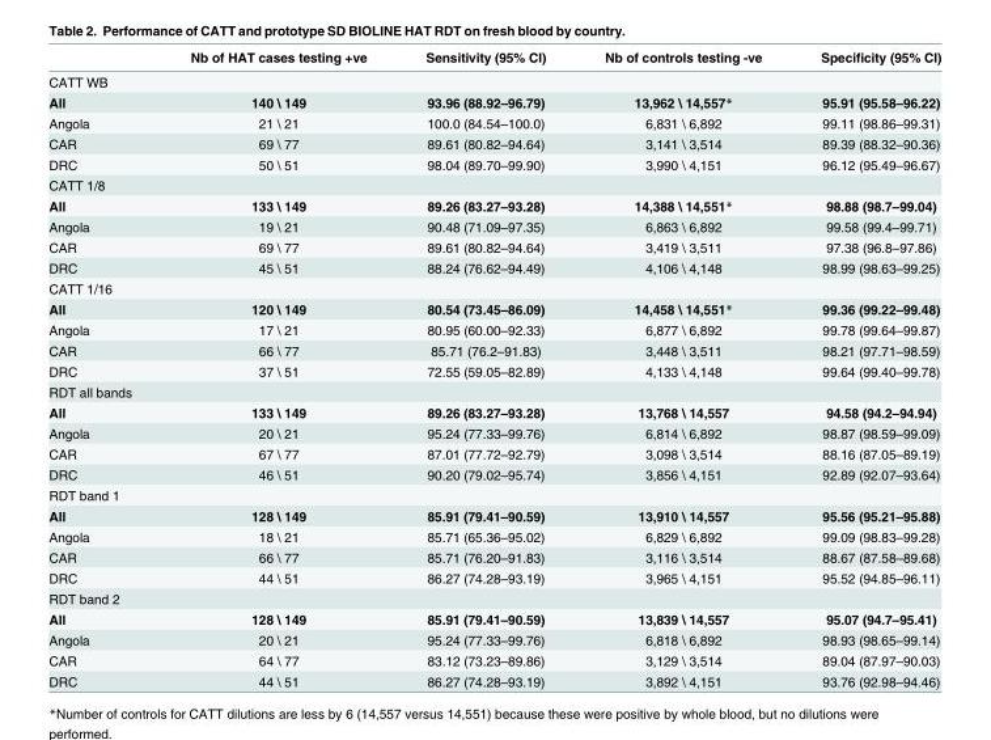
<table><thead><tr><td></td><td>Nb of HAT cases testing +ve</td><td>Sensitivity (95% CI)</td><td>Nb of controls testing -ve</td><td>Specificity (95% CI)</td></tr></thead><tbody><tr><td colspan="5">CATT WB</td></tr><tr><td>All</td><td>140 \ 149</td><td>93.96 (88.92–96.79)</td><td>13,962 \ 14,557*</td><td>95.91 (95.58–96.22)</td></tr><tr><td>Angola</td><td>21 \ 21</td><td>100.0 (84.54–100.0)</td><td>6,831 \ 6,892</td><td>99.11 (98.86–99.31)</td></tr><tr><td>CAR</td><td>69 \ 77</td><td>89.61 (80.82–94.64)</td><td>3,141 \ 3,514</td><td>89.39 (88.32–90.36)</td></tr><tr><td>DRC</td><td>50 \ 51</td><td>98.04 (89.70–99.90)</td><td>3,990 \ 4,151</td><td>96.12 (95.49–96.67)</td></tr><tr><td colspan="5">CATT 1/8</td></tr><tr><td>All</td><td>133 \ 149</td><td>89.26 (83.27–93.28)</td><td>14,388 \ 14,551*</td><td>98.88 (98.7–99.04)</td></tr><tr><td>Angola</td><td>19 \ 21</td><td>90.48 (71.09–97.35)</td><td>6,863 \ 6,892</td><td>99.58 (99.4–99.71)</td></tr><tr><td>CAR</td><td>69 \ 77</td><td>89.61 (80.82–94.64)</td><td>3,419 \ 3,511</td><td>97.38 (96.8–97.86)</td></tr><tr><td>DRC</td><td>45 \ 51</td><td>88.24 (76.62–94.49)</td><td>4,106 \ 4,148</td><td>98.99 (98.63–99.25)</td></tr><tr><td colspan="5">CATT 1/16</td></tr><tr><td>All</td><td>120 \ 149</td><td>80.54 (73.45–86.09)</td><td>14,458 \ 14,551*</td><td>99.36 (99.22–99.48)</td></tr><tr><td>Angola</td><td>17 \ 21</td><td>80.95 (60.00–92.33)</td><td>6,877 \ 6,892</td><td>99.78 (99.64–99.87)</td></tr><tr><td>CAR</td><td>66 \ 77</td><td>85.71 (76.2–91.83)</td><td>3,448 \ 3,511</td><td>98.21 (97.71–98.59)</td></tr><tr><td>DRC</td><td>37 \ 51</td><td>72.55 (59.05–82.89)</td><td>4,133 \ 4,148</td><td>99.64 (99.40–99.78)</td></tr><tr><td colspan="5">RDT all bands</td></tr><tr><td>All</td><td>133 \ 149</td><td>89.26 (83.27–93.28)</td><td>13,768 \ 14,557</td><td>94.58 (94.2–94.94)</td></tr><tr><td>Angola</td><td>20 \ 21</td><td>95.24 (77.33–99.76)</td><td>6,814 \ 6,892</td><td>98.87 (98.59–99.09)</td></tr><tr><td>CAR</td><td>67 \ 77</td><td>87.01 (77.72–92.79)</td><td>3,098 \ 3,514</td><td>88.16 (87.05–89.19)</td></tr><tr><td>DRC</td><td>46 \ 51</td><td>90.20 (79.02–95.74)</td><td>3,856 \ 4,151</td><td>92.89 (92.07–93.64)</td></tr><tr><td colspan="5">RDT band 1</td></tr><tr><td>All</td><td>128 \ 149</td><td>85.91 (79.41–90.59)</td><td>13,910 \ 14,557</td><td>95.56 (95.21–95.88)</td></tr><tr><td>Angola</td><td>18 \ 21</td><td>85.71 (65.36–95.02)</td><td>6,829 \ 6,892</td><td>99.09 (98.83–99.28)</td></tr><tr><td>CAR</td><td>66 \ 77</td><td>85.71 (76.20–91.83)</td><td>3,116 \ 3,514</td><td>88.67 (87.58–89.68)</td></tr><tr><td>DRC</td><td>44 \ 51</td><td>86.27 (74.28–93.19)</td><td>3,965 \ 4,151</td><td>95.52 (94.85–96.11)</td></tr><tr><td colspan="5">RDT band 2</td></tr><tr><td>All</td><td>128 \ 149</td><td>85.91 (79.41–90.59)</td><td>13,839 \ 14,557</td><td>95.07 (94.7–95.41)</td></tr><tr><td>Angola</td><td>20 \ 21</td><td>95.24 (77.33–99.76)</td><td>6,818 \ 6,892</td><td>98.93 (98.65–99.14)</td></tr><tr><td>CAR</td><td>64 \ 77</td><td>83.12 (73.23–89.86)</td><td>3,129 \ 3,514</td><td>89.04 (87.97–90.03)</td></tr><tr><td>DRC</td><td>44 \ 51</td><td>86.27 (74.28–93.19)</td><td>3,892 \ 4,151</td><td>93.76 (92.98–94.46)</td></tr></tbody></table>